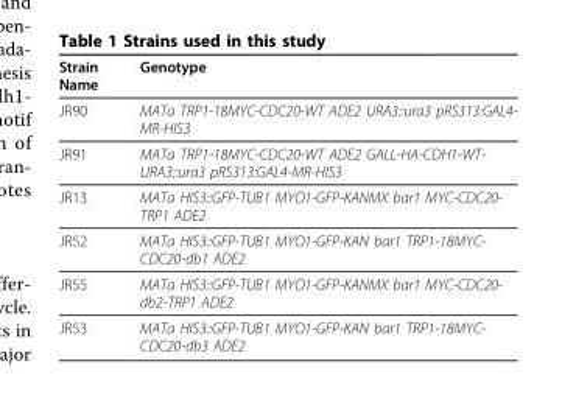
<table><thead><tr><td>Strain Name</td><td>Genotype</td></tr></thead><tbody><tr><td>JR90</td><td>MATa TRP1-18MYC-CDC20-WT ADE2 URA3::ura3 pRS313:GAL4- MR-HIS3</td></tr><tr><td>JR91</td><td>MATa TRP1-18MYC-CDC20-WT ADE2 GALL-HA-CDH1-WT- URA3::ura3 pRS313:GAL4-MR-HIS3</td></tr><tr><td>JR13</td><td>MATa HIS3::GFP-TUB1 MYO1-GFP-KANMX bar1 MYC-CDC20- TRP1 ADE2</td></tr><tr><td>JR52</td><td>MATa HIS3::GFP-TUB1 MYO1-GFP-KAN bar1 TRP1-18MYC- CDC20-db1 ADE2</td></tr><tr><td>JR55</td><td>MATa HIS3::GFP-TUB1 MYO1-GFP-KANMX bar1 MYC-CDC20- db2-TRP1 ADE2</td></tr><tr><td>JR53</td><td>MATa HIS3::GFP-TUB1 MYO1-GFP-KAN bar1 TRP1-18MYC- CDC20-db3 ADE2</td></tr></tbody></table>